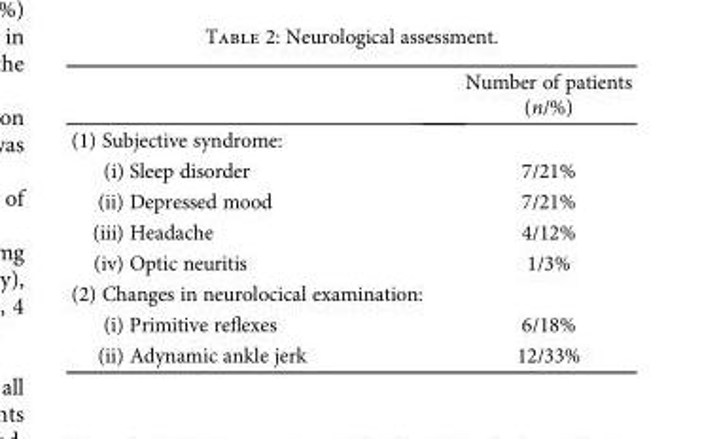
<table><thead><tr><td></td><td>Number of patients (n/%)</td></tr></thead><tbody><tr><td colspan="2">(1) Subjective syndrome:</td></tr><tr><td>(i) Sleep disorder</td><td>7/21%</td></tr><tr><td>(ii) Depressed mood</td><td>7/21%</td></tr><tr><td>(iii) Headache</td><td>4/12%</td></tr><tr><td>(iv) Optic neuritis</td><td>1/3%</td></tr><tr><td colspan="2">(2) Changes in neurolocical examination:</td></tr><tr><td>(i) Primitive reflexes</td><td>6/18%</td></tr><tr><td>(ii) Adynamic ankle jerk</td><td>12/33%</td></tr></tbody></table>